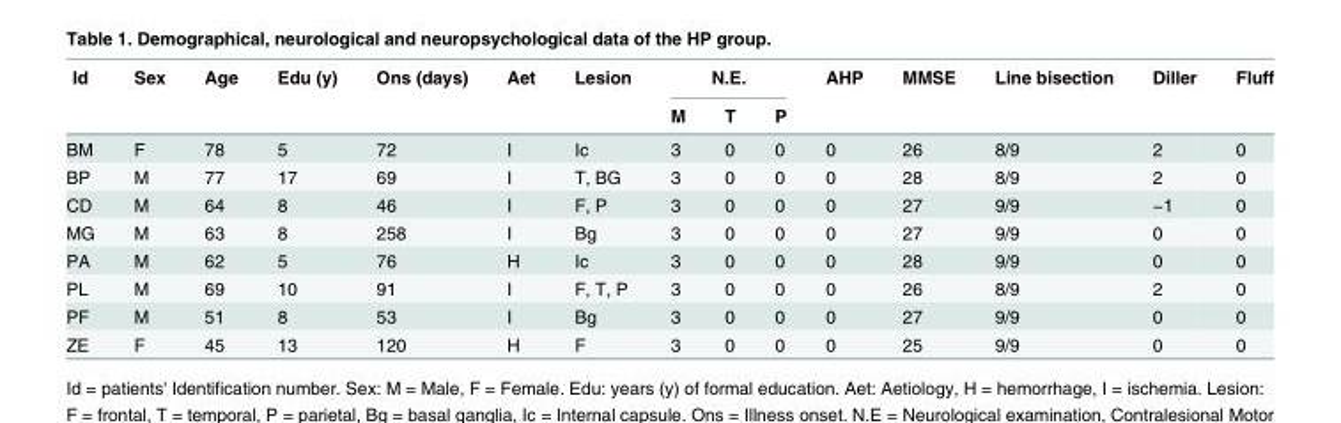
<table><thead><tr><td rowspan="2">Id</td><td rowspan="2">Sex</td><td rowspan="2">Age</td><td rowspan="2">Edu (y)</td><td rowspan="2">Ons (days)</td><td rowspan="2">Aet</td><td rowspan="2">Lesion</td><td colspan="3">N.E.</td><td rowspan="2">AHP</td><td rowspan="2">MMSE</td><td rowspan="2">Line bisection</td><td rowspan="2">Diller</td><td rowspan="2">Fluff</td></tr><tr><td>M</td><td>T</td><td>P</td></tr></thead><tbody><tr><td>BM</td><td>F</td><td>78</td><td>5</td><td>72</td><td>I</td><td>Ic</td><td>3</td><td>0</td><td>0</td><td>0</td><td>26</td><td>8/9</td><td>2</td><td>0</td></tr><tr><td>BP</td><td>M</td><td>77</td><td>17</td><td>69</td><td>I</td><td>T, BG</td><td>3</td><td>0</td><td>0</td><td>0</td><td>28</td><td>8/9</td><td>2</td><td>0</td></tr><tr><td>CD</td><td>M</td><td>64</td><td>8</td><td>46</td><td>I</td><td>F, P</td><td>3</td><td>0</td><td>0</td><td>0</td><td>27</td><td>9/9</td><td>−1</td><td>0</td></tr><tr><td>MG</td><td>M</td><td>63</td><td>8</td><td>258</td><td>I</td><td>Bg</td><td>3</td><td>0</td><td>0</td><td>0</td><td>27</td><td>9/9</td><td>0</td><td>0</td></tr><tr><td>PA</td><td>M</td><td>62</td><td>5</td><td>76</td><td>H</td><td>Ic</td><td>3</td><td>0</td><td>0</td><td>0</td><td>28</td><td>9/9</td><td>0</td><td>0</td></tr><tr><td>PL</td><td>M</td><td>69</td><td>10</td><td>91</td><td>I</td><td>F, T, P</td><td>3</td><td>0</td><td>0</td><td>0</td><td>26</td><td>8/9</td><td>2</td><td>0</td></tr><tr><td>PF</td><td>M</td><td>51</td><td>8</td><td>53</td><td>I</td><td>Bg</td><td>3</td><td>0</td><td>0</td><td>0</td><td>27</td><td>9/9</td><td>0</td><td>0</td></tr><tr><td>ZE</td><td>F</td><td>45</td><td>13</td><td>120</td><td>H</td><td>F</td><td>3</td><td>0</td><td>0</td><td>0</td><td>25</td><td>9/9</td><td>0</td><td>0</td></tr></tbody></table>